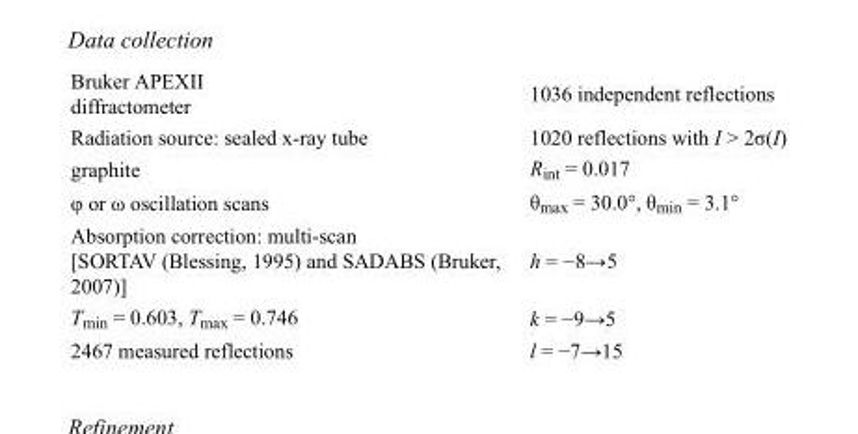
<table><tbody><tr><td>Bruker APEXII diffractometer</td><td>1036 independent reflections</td></tr><tr><td>Radiation source: sealed x-ray tube</td><td>1020 reflections with I &gt; 2σ(I)</td></tr><tr><td>graphite</td><td>R<sub>int</sub> = 0.017</td></tr><tr><td>φ or ω oscillation scans</td><td>θ<sub>max</sub> = 30.0°, θ<sub>min</sub> = 3.1°</td></tr><tr><td>Absorption correction: multi-scan [SORTAV (Blessing, 1995) and SADABS (Bruker, 2007)]</td><td>h = −8→5</td></tr><tr><td>T<sub>min</sub> = 0.603, T<sub>max</sub> = 0.746</td><td>k = −9→5</td></tr><tr><td>2467 measured reflections</td><td>l = −7→15</td></tr></tbody></table>